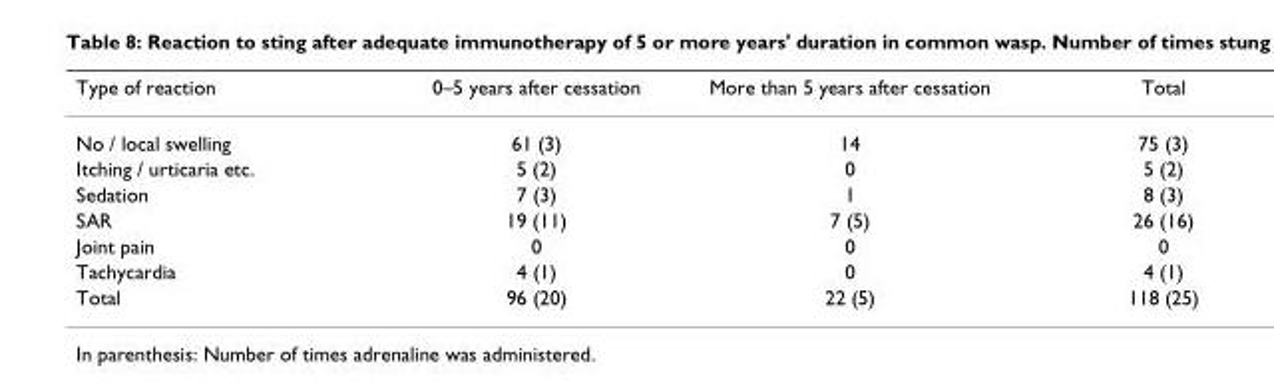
<table><thead><tr><td>Type of reaction</td><td>0–5 years after cessation</td><td>More than 5 years after cessation</td><td>Total</td></tr></thead><tbody><tr><td>No / local swelling</td><td>61 (3)</td><td>14</td><td>75 (3)</td></tr><tr><td>Itching / urticaria etc.</td><td>5 (2)</td><td>0</td><td>5 (2)</td></tr><tr><td>Sedation</td><td>7 (3)</td><td>1</td><td>8 (3)</td></tr><tr><td>SAR</td><td>19 (11)</td><td>7 (5)</td><td>26 (16)</td></tr><tr><td>Joint pain</td><td>0</td><td>0</td><td>0</td></tr><tr><td>Tachycardia</td><td>4 (1)</td><td>0</td><td>4 (1)</td></tr><tr><td>Total</td><td>96 (20)</td><td>22 (5)</td><td>118 (25)</td></tr></tbody></table>